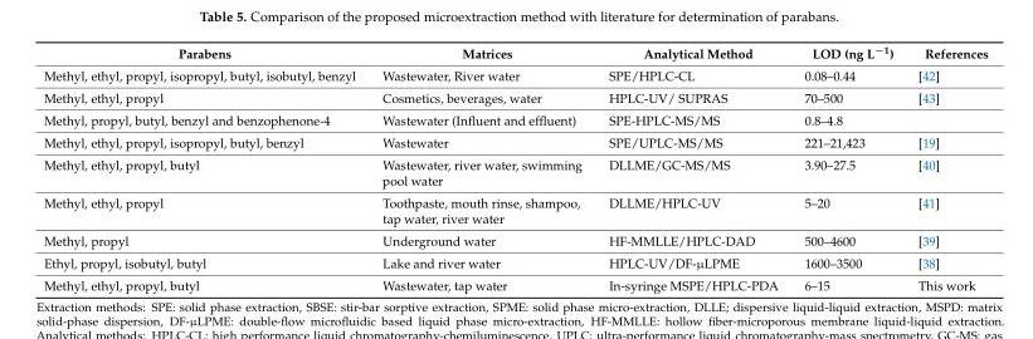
<table><thead><tr><td>Parabens</td><td>Matrices</td><td>Analytical Method</td><td>LOD (ng L<sup>−1</sup>)</td><td>References</td></tr></thead><tbody><tr><td>Methyl, ethyl, propyl, isopropyl, butyl, isobutyl, benzyl</td><td>Wastewater, River water</td><td>SPE/HPLC-CL</td><td>0.08–0.44</td><td>[42]</td></tr><tr><td>Methyl, ethyl, propyl</td><td>Cosmetics, beverages, water</td><td>HPLC-UV/ SUPRAS</td><td>70–500</td><td>[43]</td></tr><tr><td>Methyl, propyl, butyl, benzyl and benzophenone-4</td><td>Wastewater (Influent and effluent)</td><td>SPE-HPLC-MS/MS</td><td>0.8–4.8</td><td></td></tr><tr><td>Methyl, ethyl, propyl, isopropyl, butyl, benzyl</td><td>Wastewater</td><td>SPE/UPLC-MS/MS</td><td>221–21,423</td><td>[19]</td></tr><tr><td>Methyl, ethyl, propyl, butyl</td><td>Wastewater, river water, swimming pool water</td><td>DLLME/GC-MS/MS</td><td>3.90–27.5</td><td>[40]</td></tr><tr><td>Methyl, ethyl, propyl</td><td>Toothpaste, mouth rinse, shampoo, tap water, river water</td><td>DLLME/HPLC-UV</td><td>5–20</td><td>[41]</td></tr><tr><td>Methyl, propyl</td><td>Underground water</td><td>HF-MMLLE/HPLC-DAD</td><td>500–4600</td><td>[39]</td></tr><tr><td>Ethyl, propyl, isobutyl, butyl</td><td>Lake and river water</td><td>HPLC-UV/DF-µLPME</td><td>1600–3500</td><td>[38]</td></tr><tr><td>Methyl, ethyl, propyl, butyl</td><td>Wastewater, tap water</td><td>In-syringe MSPE/HPLC-PDA</td><td>6–15</td><td>This work</td></tr></tbody></table>